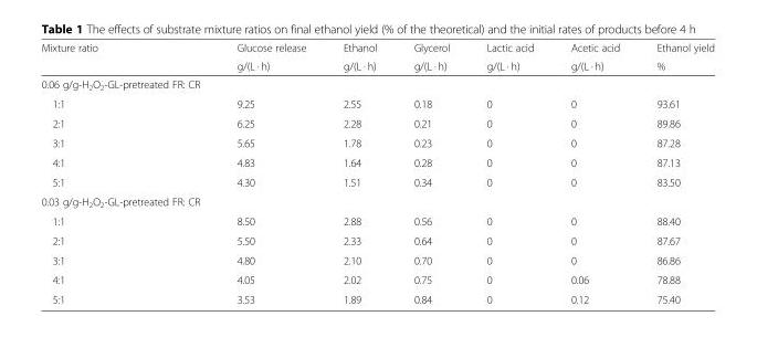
<table><thead><tr><td rowspan="2">Mixture ratio</td><td rowspan="2">Glucose release g/(L · h)</td><td rowspan="2">Ethanol g/(L · h)</td><td rowspan="2">Glycerol g/(L · h)</td><td rowspan="2">Lactic acid g/(L · h)</td><td rowspan="2">Acetic acid g/(L · h)</td><td rowspan="2">Ethanol yield %</td></tr><tr></tr></thead><tbody><tr><td colspan="7">0.06 g/g-H<sub>2</sub>O<sub>2</sub>-GL-pretreated FR: CR</td></tr><tr><td>1:1</td><td>9.25</td><td>2.55</td><td>0.18</td><td>0</td><td>0</td><td>93.61</td></tr><tr><td>2:1</td><td>6.25</td><td>2.28</td><td>0.21</td><td>0</td><td>0</td><td>89.86</td></tr><tr><td>3:1</td><td>5.65</td><td>1.78</td><td>0.23</td><td>0</td><td>0</td><td>87.28</td></tr><tr><td>4:1</td><td>4.83</td><td>1.64</td><td>0.28</td><td>0</td><td>0</td><td>87.13</td></tr><tr><td>5:1</td><td>4.30</td><td>1.51</td><td>0.34</td><td>0</td><td>0</td><td>83.50</td></tr><tr><td colspan="7">0.03 g/g-H<sub>2</sub>O<sub>2</sub>-GL-pretreated FR: CR</td></tr><tr><td>1:1</td><td>8.50</td><td>2.88</td><td>0.56</td><td>0</td><td>0</td><td>88.40</td></tr><tr><td>2:1</td><td>5.50</td><td>2.33</td><td>0.64</td><td>0</td><td>0</td><td>87.67</td></tr><tr><td>3:1</td><td>4.80</td><td>2.10</td><td>0.70</td><td>0</td><td>0</td><td>86.86</td></tr><tr><td>4:1</td><td>4.05</td><td>2.02</td><td>0.75</td><td>0</td><td>0.06</td><td>78.88</td></tr><tr><td>5:1</td><td>3.53</td><td>1.89</td><td>0.84</td><td>0</td><td>0.12</td><td>75.40</td></tr></tbody></table>